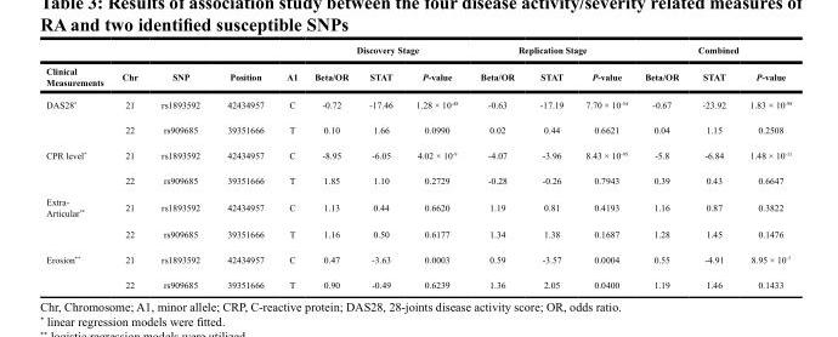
<table><thead><tr><td rowspan="2">Clinical Measurements</td><td rowspan="2">Chr</td><td rowspan="2">SNP</td><td rowspan="2">Position</td><td rowspan="2">A1</td><td colspan="3">Discovery Stage</td><td colspan="3">Replication Stage</td><td colspan="3">Combined</td></tr><tr><td>Beta/OR</td><td>STAT</td><td>P-value</td><td>Beta/OR</td><td>STAT</td><td>P-value</td><td>Beta/OR</td><td>STAT</td><td>P-value</td></tr></thead><tbody><tr><td rowspan="2">DAS28*</td><td>21</td><td>rs1893592</td><td>42434957</td><td>C</td><td>-0.72</td><td>-17.46</td><td>1.28 × 10<sup>-48</sup></td><td>-0.63</td><td>-17.19</td><td>7.70 × 10<sup>-54</sup></td><td>-0.67</td><td>-23.92</td><td>1.83 × 10<sup>-98</sup></td></tr><tr><td>22</td><td>rs909685</td><td>39351666</td><td>T</td><td>0.10</td><td>1.66</td><td>0.0990</td><td>0.02</td><td>0.44</td><td>0.6621</td><td>0.04</td><td>1.15</td><td>0.2508</td></tr><tr><td rowspan="2">CPR level*</td><td>21</td><td>rs1893592</td><td>42434957</td><td>C</td><td>-8.95</td><td>-6.05</td><td>4.02 × 10<sup>-9</sup></td><td>-4.07</td><td>-3.96</td><td>8.43 × 10<sup>-95</sup></td><td>-5.8</td><td>-6.84</td><td>1.48 × 10<sup>-11</sup></td></tr><tr><td>22</td><td>rs909685</td><td>39351666</td><td>T</td><td>1.85</td><td>1.10</td><td>0.2729</td><td>-0.28</td><td>-0.26</td><td>0.7943</td><td>0.39</td><td>0.43</td><td>0.6647</td></tr><tr><td rowspan="2">Extra- Articular**</td><td>21</td><td>rs1893592</td><td>42434957</td><td>C</td><td>1.13</td><td>0.44</td><td>0.6620</td><td>1.19</td><td>0.81</td><td>0.4193</td><td>1.16</td><td>0.87</td><td>0.3822</td></tr><tr><td>22</td><td>rs909685</td><td>39351666</td><td>T</td><td>1.16</td><td>0.50</td><td>0.6177</td><td>1.34</td><td>1.38</td><td>0.1687</td><td>1.28</td><td>1.45</td><td>0.1476</td></tr><tr><td rowspan="2">Erosion**</td><td>21</td><td>rs1893592</td><td>42434957</td><td>C</td><td>0.47</td><td>-3.63</td><td>0.0003</td><td>0.59</td><td>-3.57</td><td>0.0004</td><td>0.55</td><td>-4.91</td><td>8.95 × 10<sup>-7</sup></td></tr><tr><td>22</td><td>rs909685</td><td>39351666</td><td>T</td><td>0.90</td><td>-0.49</td><td>0.6239</td><td>1.36</td><td>2.05</td><td>0.0400</td><td>1.19</td><td>1.46</td><td>0.1433</td></tr></tbody></table>